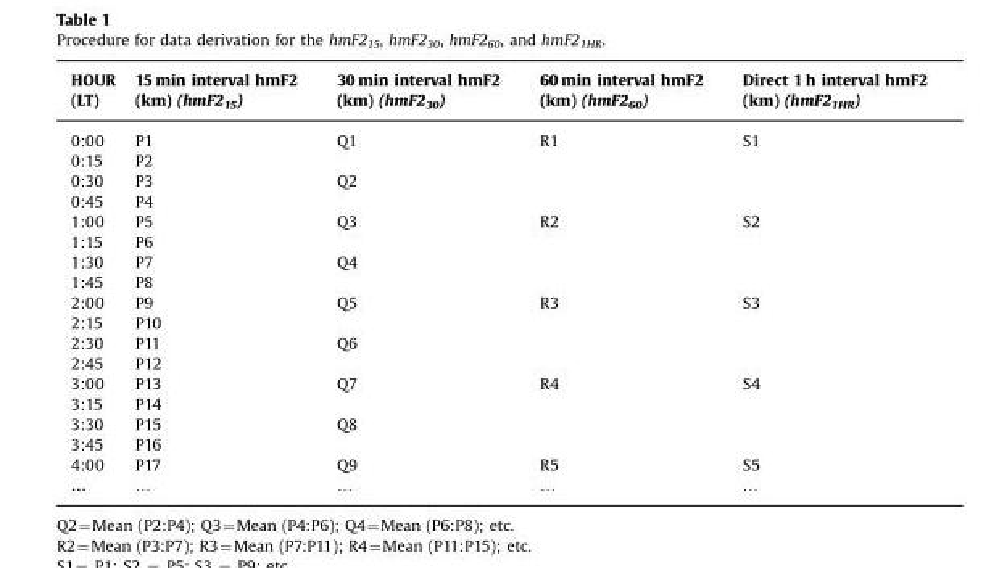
<table><thead><tr><td>HOUR (LT)</td><td>15 min interval hmF2 (km) (hmF2<sub>15</sub>)</td><td>30 min interval hmF2 (km) (hmF2<sub>30</sub>)</td><td>60 min interval hmF2 (km) (hmF2<sub>60</sub>)</td><td>Direct 1 h interval hmF2 (km) (hmF2<sub>1HR</sub>)</td></tr></thead><tbody><tr><td>0:00</td><td>P1</td><td>Q1</td><td>R1</td><td>S1</td></tr><tr><td>0:15</td><td>P2</td><td></td><td></td><td></td></tr><tr><td>0:30</td><td>P3</td><td>Q2</td><td></td><td></td></tr><tr><td>0:45</td><td>P4</td><td></td><td></td><td></td></tr><tr><td>1:00</td><td>P5</td><td>Q3</td><td>R2</td><td>S2</td></tr><tr><td>1:15</td><td>P6</td><td></td><td></td><td></td></tr><tr><td>1:30</td><td>P7</td><td>Q4</td><td></td><td></td></tr><tr><td>1:45</td><td>P8</td><td></td><td></td><td></td></tr><tr><td>2:00</td><td>P9</td><td>Q5</td><td>R3</td><td>S3</td></tr><tr><td>2:15</td><td>P10</td><td></td><td></td><td></td></tr><tr><td>2:30</td><td>P11</td><td>Q6</td><td></td><td></td></tr><tr><td>2:45</td><td>P12</td><td></td><td></td><td></td></tr><tr><td>3:00</td><td>P13</td><td>Q7</td><td>R4</td><td>S4</td></tr><tr><td>3:15</td><td>P14</td><td></td><td></td><td></td></tr><tr><td>3:30</td><td>P15</td><td>Q8</td><td></td><td></td></tr><tr><td>3:45</td><td>P16</td><td></td><td></td><td></td></tr><tr><td>4:00</td><td>P17</td><td>Q9</td><td>R5</td><td>S5</td></tr><tr><td>…</td><td>…</td><td>…</td><td>…</td><td>…</td></tr></tbody></table>